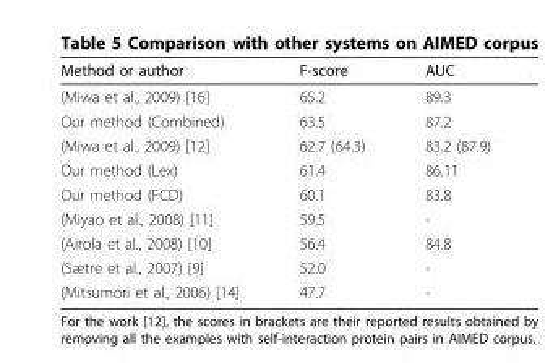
<table><thead><tr><td>Method or author</td><td>F-score</td><td>AUC</td></tr></thead><tbody><tr><td>(Miwa et al., 2009) [16]</td><td>65.2</td><td>89.3</td></tr><tr><td>Our method (Combined)</td><td>63.5</td><td>87.2</td></tr><tr><td>(Miwa et al., 2009) [12]</td><td>62.7 (64.3)</td><td>83.2 (87.9)</td></tr><tr><td>Our method (Lex)</td><td>61.4</td><td>86.11</td></tr><tr><td>Our method (FCD)</td><td>60.1</td><td>83.8</td></tr><tr><td>(Miyao et al., 2008) [11]</td><td>59.5</td><td>-</td></tr><tr><td>(Airola et al., 2008) [10]</td><td>56.4</td><td>84.8</td></tr><tr><td>(Sætre et al., 2007) [9]</td><td>52.0</td><td>-</td></tr><tr><td>(Mitsumori et al., 2006) [14]</td><td>47.7</td><td>-</td></tr></tbody></table>